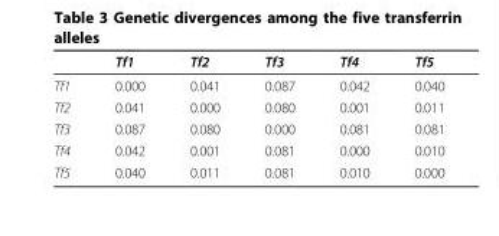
<table><thead><tr><td></td><td>Tf1</td><td>Tf2</td><td>Tf3</td><td>Tf4</td><td>Tf5</td></tr></thead><tbody><tr><td>Tf1</td><td>0.000</td><td>0.041</td><td>0.087</td><td>0.042</td><td>0.040</td></tr><tr><td>Tf2</td><td>0.041</td><td>0.000</td><td>0.080</td><td>0.001</td><td>0.011</td></tr><tr><td>Tf3</td><td>0.087</td><td>0.080</td><td>0.000</td><td>0.081</td><td>0.081</td></tr><tr><td>Tf4</td><td>0.042</td><td>0.001</td><td>0.081</td><td>0.000</td><td>0.010</td></tr><tr><td>Tf5</td><td>0.040</td><td>0.011</td><td>0.081</td><td>0.010</td><td>0.000</td></tr></tbody></table>